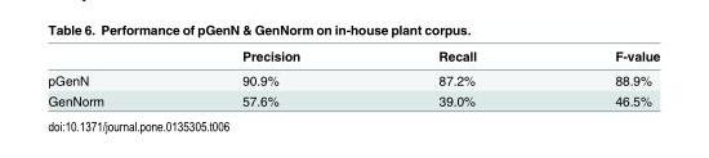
<table><thead><tr><td></td><td>Precision</td><td>Recall</td><td>F-value</td></tr></thead><tbody><tr><td>pGenN</td><td>90.9%</td><td>87.2%</td><td>88.9%</td></tr><tr><td>GenNorm</td><td>57.6%</td><td>39.0%</td><td>46.5%</td></tr></tbody></table>